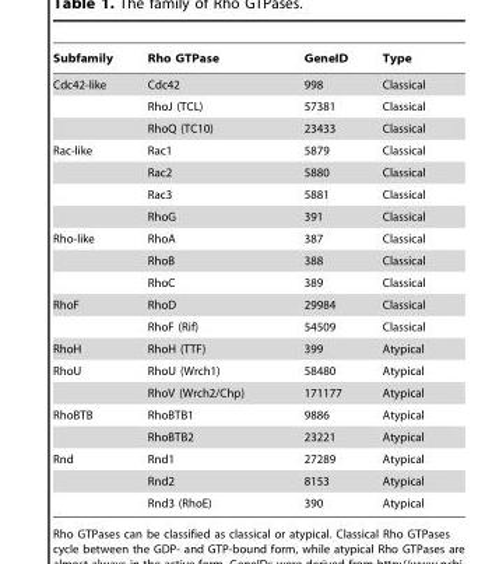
<table><thead><tr><td>Subfamily</td><td>Rho GTPase</td><td>GeneID</td><td>Type</td></tr></thead><tbody><tr><td rowspan="3">Cdc42-like</td><td>Cdc42</td><td>998</td><td>Classical</td></tr><tr><td>RhoJ (TCL)</td><td>57381</td><td>Classical</td></tr><tr><td>RhoQ (TC10)</td><td>23433</td><td>Classical</td></tr><tr><td rowspan="4">Rac-like</td><td>Rac1</td><td>5879</td><td>Classical</td></tr><tr><td>Rac2</td><td>5880</td><td>Classical</td></tr><tr><td>Rac3</td><td>5881</td><td>Classical</td></tr><tr><td>RhoG</td><td>391</td><td>Classical</td></tr><tr><td rowspan="3">Rho-like</td><td>RhoA</td><td>387</td><td>Classical</td></tr><tr><td>RhoB</td><td>388</td><td>Classical</td></tr><tr><td>RhoC</td><td>389</td><td>Classical</td></tr><tr><td rowspan="2">RhoF</td><td>RhoD</td><td>29984</td><td>Classical</td></tr><tr><td>RhoF (Rif)</td><td>54509</td><td>Classical</td></tr><tr><td>RhoH</td><td>RhoH (TTF)</td><td>399</td><td>Atypical</td></tr><tr><td rowspan="2">RhoU</td><td>RhoU (Wrch1)</td><td>58480</td><td>Atypical</td></tr><tr><td>RhoV (Wrch2/Chp)</td><td>171177</td><td>Atypical</td></tr><tr><td rowspan="2">RhoBTB</td><td>RhoBTB1</td><td>9886</td><td>Atypical</td></tr><tr><td>RhoBTB2</td><td>23221</td><td>Atypical</td></tr><tr><td rowspan="3">Rnd</td><td>Rnd1</td><td>27289</td><td>Atypical</td></tr><tr><td>Rnd2</td><td>8153</td><td>Atypical</td></tr><tr><td>Rnd3 (RhoE)</td><td>390</td><td>Atypical</td></tr></tbody></table>